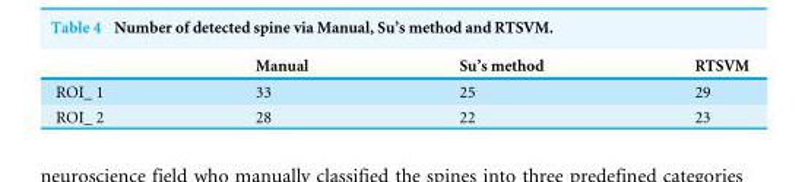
<table><thead><tr><td></td><td>Manual</td><td>Su’s method</td><td>RTSVM</td></tr></thead><tbody><tr><td>ROI_ 1</td><td>33</td><td>25</td><td>29</td></tr><tr><td>ROI_ 2</td><td>28</td><td>22</td><td>23</td></tr></tbody></table>